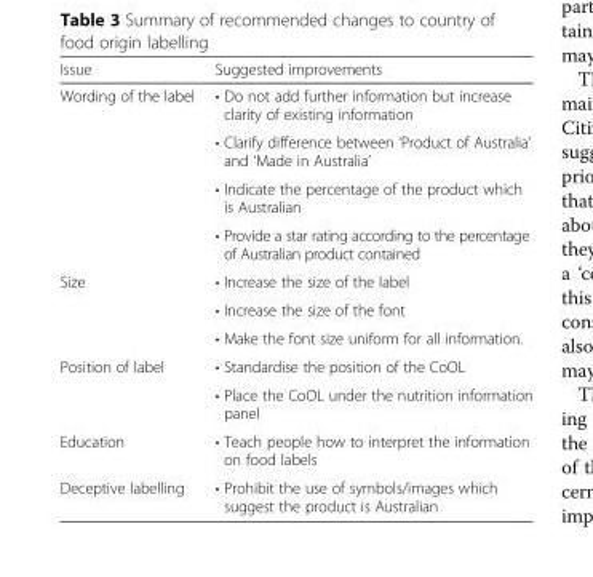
<table><thead><tr><td>Issue</td><td>Suggested improvements</td></tr></thead><tbody><tr><td rowspan="4">Wording of the label</td><td>• Do not add further information but increase clarity of existing information</td></tr><tr><td>• Clarify difference between ‘Product of Australia’ and ‘Made in Australia’</td></tr><tr><td>• Indicate the percentage of the product which is Australian</td></tr><tr><td>• Provide a star rating according to the percentage of Australian product contained</td></tr><tr><td rowspan="3">Size</td><td>• Increase the size of the label</td></tr><tr><td>• Increase the size of the font</td></tr><tr><td>• Make the font size uniform for all information.</td></tr><tr><td rowspan="2">Position of label</td><td>• Standardise the position of the CoOL</td></tr><tr><td>• Place the CoOL under the nutrition information panel</td></tr><tr><td>Education</td><td>• Teach people how to interpret the information on food labels</td></tr><tr><td>Deceptive labelling</td><td>• Prohibit the use of symbols/images which suggest the product is Australian</td></tr></tbody></table>